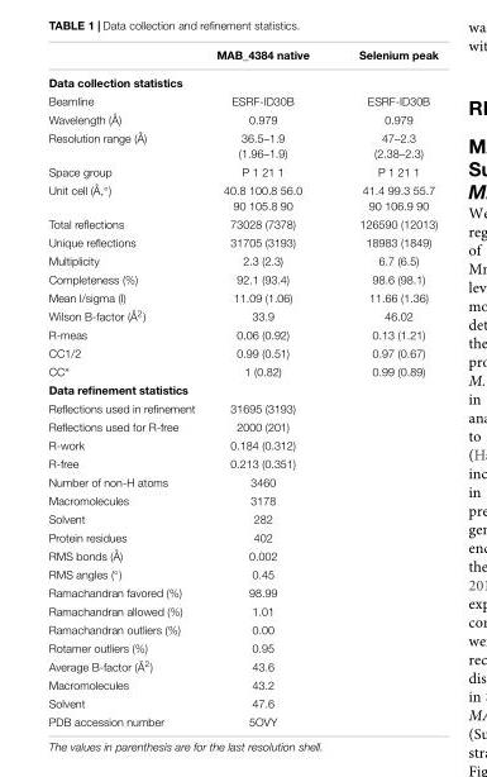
<table><thead><tr><td></td><td>MAB_4384 native</td><td>Selenium peak</td></tr></thead><tbody><tr><td colspan="3">Data collection statistics</td></tr><tr><td>Beamline</td><td>ESRF-ID30B</td><td>ESRF-ID30B</td></tr><tr><td>Wavelength (Å)</td><td>0.979</td><td>0.979</td></tr><tr><td>Resolution range (Å)</td><td>36.5–1.9 (1.96–1.9)</td><td>47–2.3 (2.38–2.3)</td></tr><tr><td>Space group</td><td>P 1 21 1</td><td>P 1 21 1</td></tr><tr><td>Unit cell (Å,◦)</td><td>40.8 100.8 56.0 90 105.8 90</td><td>41.4 99.3 55.7 90 106.9 90</td></tr><tr><td>Total reflections</td><td>73028 (7378)</td><td>126590 (12013)</td></tr><tr><td>Unique reflections</td><td>31705 (3193)</td><td>18983 (1849)</td></tr><tr><td>Multiplicity</td><td>2.3 (2.3)</td><td>6.7 (6.5)</td></tr><tr><td>Completeness (%)</td><td>92.1 (93.4)</td><td>98.6 (98.1)</td></tr><tr><td>Mean I/sigma (I)</td><td>11.09 (1.06)</td><td>11.66 (1.36)</td></tr><tr><td>Wilson B-factor (Å<sup>2</sup>)</td><td>33.9</td><td>46.02</td></tr><tr><td>R-meas</td><td>0.06 (0.92)</td><td>0.13 (1.21)</td></tr><tr><td>CC1/2</td><td>0.99 (0.51)</td><td>0.97 (0.67)</td></tr><tr><td>CC∗</td><td>1 (0.82)</td><td>0.99 (0.89)</td></tr><tr><td colspan="3">Data refinement statistics</td></tr><tr><td>Reflections used in refinement</td><td>31695 (3193)</td><td></td></tr><tr><td>Reflections used for R-free</td><td>2000 (201)</td><td></td></tr><tr><td>R-work</td><td>0.184 (0.312)</td><td></td></tr><tr><td>R-free</td><td>0.213 (0.351)</td><td></td></tr><tr><td>Number of non-H atoms</td><td>3460</td><td></td></tr><tr><td>Macromolecules</td><td>3178</td><td></td></tr><tr><td>Solvent</td><td>282</td><td></td></tr><tr><td>Protein residues</td><td>402</td><td></td></tr><tr><td>RMS bonds (Å)</td><td>0.002</td><td></td></tr><tr><td>RMS angles (◦)</td><td>0.45</td><td></td></tr><tr><td>Ramachandran favored (%)</td><td>98.99</td><td></td></tr><tr><td>Ramachandran allowed (%)</td><td>1.01</td><td></td></tr><tr><td>Ramachandran outliers (%)</td><td>0.00</td><td></td></tr><tr><td>Rotamer outliers (%)</td><td>0.95</td><td></td></tr><tr><td>Average B-factor (Å<sup>2</sup>)</td><td>43.6</td><td></td></tr><tr><td>Macromolecules</td><td>43.2</td><td></td></tr><tr><td>Solvent</td><td>47.6</td><td></td></tr><tr><td>PDB accession number</td><td>5OVY</td><td></td></tr></tbody></table>